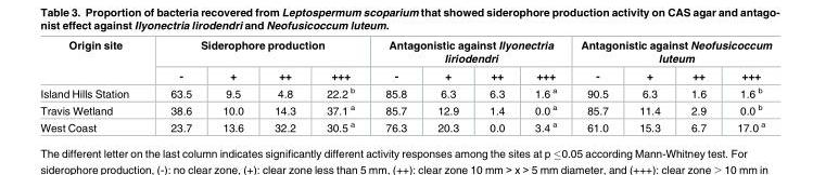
<table><thead><tr><td rowspan="2">Origin site</td><td colspan="4">Siderophore production</td><td colspan="4">Antagonistic against Ilyonectria liriodendri</td><td colspan="4">Antagonistic against Neofusicoccum luteum</td></tr><tr><td>-</td><td>+</td><td>++</td><td>+++</td><td>-</td><td>+</td><td>++</td><td>+++</td><td>-</td><td>+</td><td>++</td><td>+++</td></tr></thead><tbody><tr><td>Island Hills Station</td><td>63.5</td><td>9.5</td><td>4.8</td><td>22.2 <sup>b</sup></td><td>85.8</td><td>6.3</td><td>6.3</td><td>1.6 <sup>a</sup></td><td>90.5</td><td>6.3</td><td>1.6</td><td>1.6 <sup>b</sup></td></tr><tr><td>Travis Wetland</td><td>38.6</td><td>10.0</td><td>14.3</td><td>37.1 <sup>a</sup></td><td>85.7</td><td>12.9</td><td>1.4</td><td>0.0 <sup>a</sup></td><td>85.7</td><td>11.4</td><td>2.9</td><td>0.0 <sup>b</sup></td></tr><tr><td>West Coast</td><td>23.7</td><td>13.6</td><td>32.2</td><td>30.5 <sup>a</sup></td><td>76.3</td><td>20.3</td><td>0.0</td><td>3.4 <sup>a</sup></td><td>61.0</td><td>15.3</td><td>6.7</td><td>17.0 <sup>a</sup></td></tr></tbody></table>